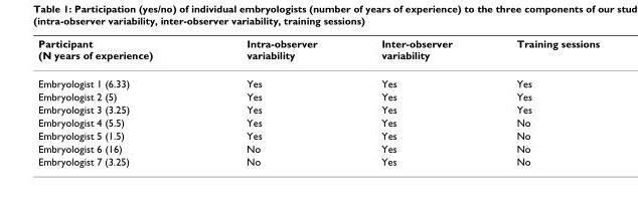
<table><thead><tr><td>Participant (N years of experience)</td><td>Intra-observer variability</td><td>Inter-observer variability</td><td>Training sessions</td></tr></thead><tbody><tr><td>Embryologist 1 (6.33)</td><td>Yes</td><td>Yes</td><td>Yes</td></tr><tr><td>Embryologist 2 (5)</td><td>Yes</td><td>Yes</td><td>Yes</td></tr><tr><td>Embryologist 3 (3.25)</td><td>Yes</td><td>Yes</td><td>Yes</td></tr><tr><td>Embryologist 4 (5.5)</td><td>Yes</td><td>Yes</td><td>No</td></tr><tr><td>Embryologist 5 (1.5)</td><td>Yes</td><td>Yes</td><td>No</td></tr><tr><td>Embryologist 6 (16)</td><td>No</td><td>Yes</td><td>No</td></tr><tr><td>Embryologist 7 (3.25)</td><td>No</td><td>Yes</td><td>No</td></tr></tbody></table>